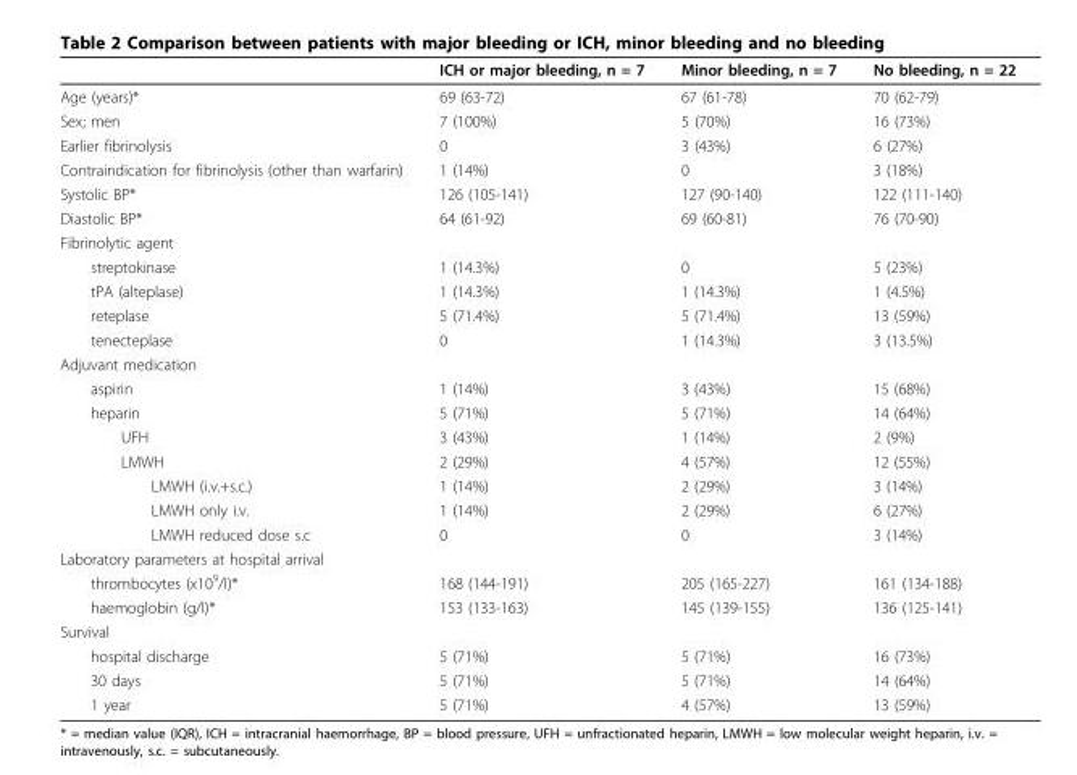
<table><thead><tr><td></td><td>ICH or major bleeding, n = 7</td><td>Minor bleeding, n = 7</td><td>No bleeding, n = 22</td></tr></thead><tbody><tr><td>Age (years)*</td><td>69 (63-72)</td><td>67 (61-78)</td><td>70 (62-79)</td></tr><tr><td>Sex; men</td><td>7 (100%)</td><td>5 (70%)</td><td>16 (73%)</td></tr><tr><td>Earlier fibrinolysis</td><td>0</td><td>3 (43%)</td><td>6 (27%)</td></tr><tr><td>Contraindication for fibrinolysis (other than warfarin)</td><td>1 (14%)</td><td>0</td><td>3 (18%)</td></tr><tr><td>Systolic BP*</td><td>126 (105-141)</td><td>127 (90-140)</td><td>122 (111-140)</td></tr><tr><td>Diastolic BP*</td><td>64 (61-92)</td><td>69 (60-81)</td><td>76 (70-90)</td></tr><tr><td colspan="4">Fibrinolytic agent</td></tr><tr><td>streptokinase</td><td>1 (14.3%)</td><td>0</td><td>5 (23%)</td></tr><tr><td>tPA (alteplase)</td><td>1 (14.3%)</td><td>1 (14.3%)</td><td>1 (4.5%)</td></tr><tr><td>reteplase</td><td>5 (71.4%)</td><td>5 (71.4%)</td><td>13 (59%)</td></tr><tr><td>tenecteplase</td><td>0</td><td>1 (14.3%)</td><td>3 (13.5%)</td></tr><tr><td colspan="4">Adjuvant medication</td></tr><tr><td>aspirin</td><td>1 (14%)</td><td>3 (43%)</td><td>15 (68%)</td></tr><tr><td>heparin</td><td>5 (71%)</td><td>5 (71%)</td><td>14 (64%)</td></tr><tr><td>UFH</td><td>3 (43%)</td><td>1 (14%)</td><td>2 (9%)</td></tr><tr><td>LMWH</td><td>2 (29%)</td><td>4 (57%)</td><td>12 (55%)</td></tr><tr><td>LMWH (i.v.+s.c.)</td><td>1 (14%)</td><td>2 (29%)</td><td>3 (14%)</td></tr><tr><td>LMWH only i.v.</td><td>1 (14%)</td><td>2 (29%)</td><td>6 (27%)</td></tr><tr><td>LMWH reduced dose s.c</td><td>0</td><td>0</td><td>3 (14%)</td></tr><tr><td colspan="4">Laboratory parameters at hospital arrival</td></tr><tr><td>thrombocytes (x10<sup>9</sup>/l)*</td><td>168 (144-191)</td><td>205 (165-227)</td><td>161 (134-188)</td></tr><tr><td>haemoglobin (g/l)*</td><td>153 (133-163)</td><td>145 (139-155)</td><td>136 (125-141)</td></tr><tr><td colspan="4">Survival</td></tr><tr><td>hospital discharge</td><td>5 (71%)</td><td>5 (71%)</td><td>16 (73%)</td></tr><tr><td>30 days</td><td>5 (71%)</td><td>5 (71%)</td><td>14 (64%)</td></tr><tr><td>1 year</td><td>5 (71%)</td><td>4 (57%)</td><td>13 (59%)</td></tr></tbody></table>